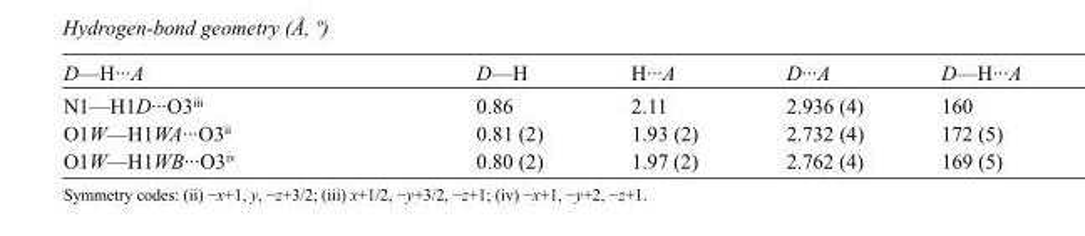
<table><tbody><tr><td>D—H···A</td><td>D—H</td><td>H···A</td><td>D···A</td><td>D—H···A</td></tr><tr><td>N1—H1D···O3<sup>iii</sup></td><td>0.86</td><td>2.11</td><td>2.936 (4)</td><td>160</td></tr><tr><td>O1W—H1WA···O3<sup>ii</sup></td><td>0.81 (2)</td><td>1.93 (2)</td><td>2.732 (4)</td><td>172 (5)</td></tr><tr><td>O1W—H1WB···O3<sup>iv</sup></td><td>0.80 (2)</td><td>1.97 (2)</td><td>2.762 (4)</td><td>169 (5)</td></tr></tbody></table>